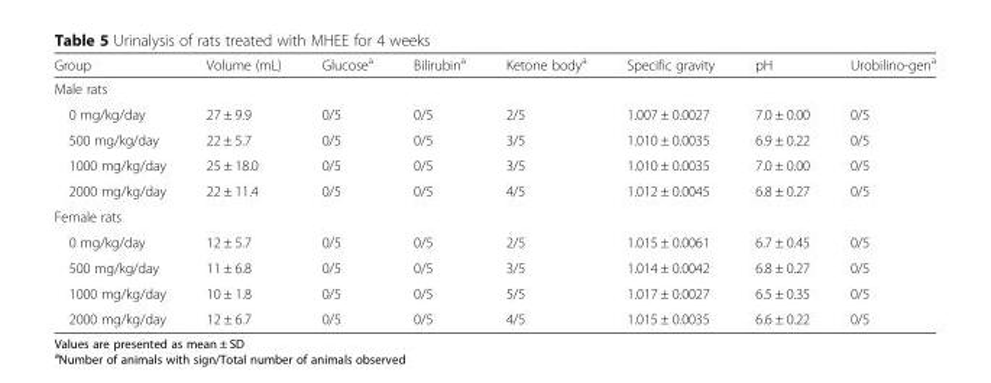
<table><thead><tr><td>Group</td><td>Volume (mL)</td><td>Glucose<sup>a</sup></td><td>Bilirubin<sup>a</sup></td><td>Ketone body<sup>a</sup></td><td>Specific gravity</td><td>pH</td><td>Urobilino-gen<sup>a</sup></td></tr></thead><tbody><tr><td colspan="8">Male rats</td></tr><tr><td>0 mg/kg/day</td><td>27 ± 9.9</td><td>0/5</td><td>0/5</td><td>2/5</td><td>1.007 ± 0.0027</td><td>7.0 ± 0.00</td><td>0/5</td></tr><tr><td>500 mg/kg/day</td><td>22 ± 5.7</td><td>0/5</td><td>0/5</td><td>3/5</td><td>1.010 ± 0.0035</td><td>6.9 ± 0.22</td><td>0/5</td></tr><tr><td>1000 mg/kg/day</td><td>25 ± 18.0</td><td>0/5</td><td>0/5</td><td>3/5</td><td>1.010 ± 0.0035</td><td>7.0 ± 0.00</td><td>0/5</td></tr><tr><td>2000 mg/kg/day</td><td>22 ± 11.4</td><td>0/5</td><td>0/5</td><td>4/5</td><td>1.012 ± 0.0045</td><td>6.8 ± 0.27</td><td>0/5</td></tr><tr><td colspan="8">Female rats</td></tr><tr><td>0 mg/kg/day</td><td>12 ± 5.7</td><td>0/5</td><td>0/5</td><td>2/5</td><td>1.015 ± 0.0061</td><td>6.7 ± 0.45</td><td>0/5</td></tr><tr><td>500 mg/kg/day</td><td>11 ± 6.8</td><td>0/5</td><td>0/5</td><td>3/5</td><td>1.014 ± 0.0042</td><td>6.8 ± 0.27</td><td>0/5</td></tr><tr><td>1000 mg/kg/day</td><td>10 ± 1.8</td><td>0/5</td><td>0/5</td><td>5/5</td><td>1.017 ± 0.0027</td><td>6.5 ± 0.35</td><td>0/5</td></tr><tr><td>2000 mg/kg/day</td><td>12 ± 6.7</td><td>0/5</td><td>0/5</td><td>4/5</td><td>1.015 ± 0.0035</td><td>6.6 ± 0.22</td><td>0/5</td></tr></tbody></table>